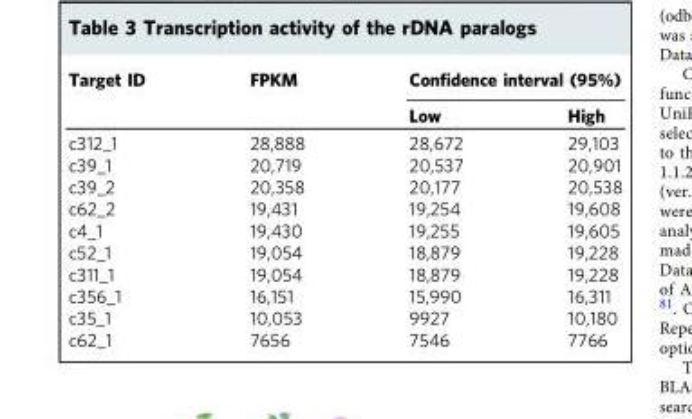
<table><thead><tr><td rowspan="2">Target ID</td><td rowspan="2">FPKM</td><td colspan="2">Confidence interval (95%)</td></tr><tr><td>Low</td><td>High</td></tr></thead><tbody><tr><td>c312_1</td><td>28,888</td><td>28,672</td><td>29,103</td></tr><tr><td>c39_1</td><td>20,719</td><td>20,537</td><td>20,901</td></tr><tr><td>c39_2</td><td>20,358</td><td>20,177</td><td>20,538</td></tr><tr><td>c62_2</td><td>19,431</td><td>19,254</td><td>19,608</td></tr><tr><td>c4_1</td><td>19,430</td><td>19,255</td><td>19,605</td></tr><tr><td>c52_1</td><td>19,054</td><td>18,879</td><td>19,228</td></tr><tr><td>c311_1</td><td>19,054</td><td>18,879</td><td>19,228</td></tr><tr><td>c356_1</td><td>16,151</td><td>15,990</td><td>16,311</td></tr><tr><td>c35_1</td><td>10,053</td><td>9927</td><td>10,180</td></tr><tr><td>c62_1</td><td>7656</td><td>7546</td><td>7766</td></tr></tbody></table>